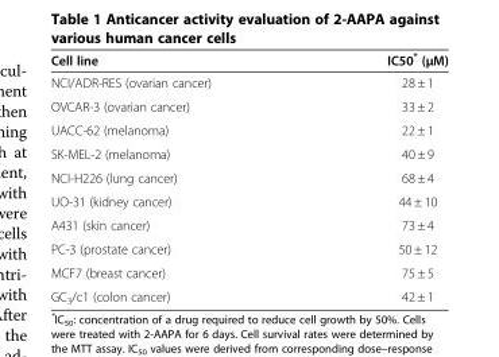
<table><thead><tr><td>Cell line</td><td>IC50* (μM)</td></tr></thead><tbody><tr><td>NCI/ADR-RES (ovarian cancer)</td><td>28 ± 1</td></tr><tr><td>OVCAR-3 (ovarian cancer)</td><td>33 ± 2</td></tr><tr><td>UACC-62 (melanoma)</td><td>22 ± 1</td></tr><tr><td>SK-MEL-2 (melanoma)</td><td>40 ± 9</td></tr><tr><td>NCI-H226 (lung cancer)</td><td>68 ± 4</td></tr><tr><td>UO-31 (kidney cancer)</td><td>44 ± 10</td></tr><tr><td>A431 (skin cancer)</td><td>73 ± 4</td></tr><tr><td>PC-3 (prostate cancer)</td><td>50 ± 12</td></tr><tr><td>MCF7 (breast cancer)</td><td>75 ± 5</td></tr><tr><td>GC<sub>3</sub>/c1 (colon cancer)</td><td>42 ± 1</td></tr></tbody></table>